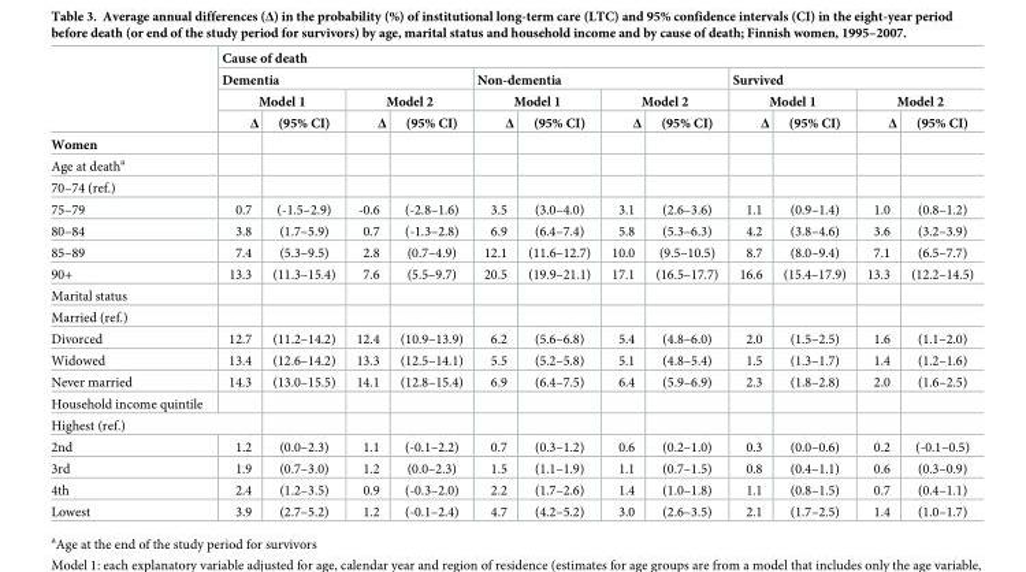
<table><thead><tr><td rowspan="5">Women</td><td colspan="12">Cause of death</td></tr><tr><td colspan="4">Dementia</td><td colspan="4">Non-dementia</td><td colspan="4">Survived</td></tr><tr><td colspan="2">Model 1</td><td colspan="2">Model 2</td><td colspan="2">Model 1</td><td colspan="2">Model 2</td><td colspan="2">Model 1</td><td colspan="2">Model 2</td></tr><tr><td rowspan="2">Δ</td><td rowspan="2">(95% CI)</td><td rowspan="2">Δ</td><td rowspan="2">(95% CI)</td><td rowspan="2">Δ</td><td rowspan="2">(95% CI)</td><td rowspan="2">Δ</td><td rowspan="2">(95% CI)</td><td rowspan="2">Δ</td><td rowspan="2">(95% CI)</td><td rowspan="2">Δ</td><td rowspan="2">(95% CI)</td></tr><tr></tr></thead><tbody><tr><td colspan="13">Age at death<sup>a</sup></td></tr><tr><td colspan="13">70–74 (ref.)</td></tr><tr><td>75–79</td><td>0.7</td><td>(-1.5–2.9)</td><td>-0.6</td><td>(-2.8–1.6)</td><td>3.5</td><td>(3.0–4.0)</td><td>3.1</td><td>(2.6–3.6)</td><td>1.1</td><td>(0.9–1.4)</td><td>1.0</td><td>(0.8–1.2)</td></tr><tr><td>80–84</td><td>3.8</td><td>(1.7–5.9)</td><td>0.7</td><td>(-1.3–2.8)</td><td>6.9</td><td>(6.4–7.4)</td><td>5.8</td><td>(5.3–6.3)</td><td>4.2</td><td>(3.8–4.6)</td><td>3.6</td><td>(3.2–3.9)</td></tr><tr><td>85–89</td><td>7.4</td><td>(5.3–9.5)</td><td>2.8</td><td>(0.7–4.9)</td><td>12.1</td><td>(11.6–12.7)</td><td>10.0</td><td>(9.5–10.5)</td><td>8.7</td><td>(8.0–9.4)</td><td>7.1</td><td>(6.5–7.7)</td></tr><tr><td>90+</td><td>13.3</td><td>(11.3–15.4)</td><td>7.6</td><td>(5.5–9.7)</td><td>20.5</td><td>(19.9–21.1)</td><td>17.1</td><td>(16.5–17.7)</td><td>16.6</td><td>(15.4–17.9)</td><td>13.3</td><td>(12.2–14.5)</td></tr><tr><td colspan="13">Marital status</td></tr><tr><td colspan="13">Married (ref.)</td></tr><tr><td>Divorced</td><td>12.7</td><td>(11.2–14.2)</td><td>12.4</td><td>(10.9–13.9)</td><td>6.2</td><td>(5.6–6.8)</td><td>5.4</td><td>(4.8–6.0)</td><td>2.0</td><td>(1.5–2.5)</td><td>1.6</td><td>(1.1–2.0)</td></tr><tr><td>Widowed</td><td>13.4</td><td>(12.6–14.2)</td><td>13.3</td><td>(12.5–14.1)</td><td>5.5</td><td>(5.2–5.8)</td><td>5.1</td><td>(4.8–5.4)</td><td>1.5</td><td>(1.3–1.7)</td><td>1.4</td><td>(1.2–1.6)</td></tr><tr><td>Never married</td><td>14.3</td><td>(13.0–15.5)</td><td>14.1</td><td>(12.8–15.4)</td><td>6.9</td><td>(6.4–7.5)</td><td>6.4</td><td>(5.9–6.9)</td><td>2.3</td><td>(1.8–2.8)</td><td>2.0</td><td>(1.6–2.5)</td></tr><tr><td colspan="13">Household income quintile</td></tr><tr><td colspan="13">Highest (ref.)</td></tr><tr><td>2nd</td><td>1.2</td><td>(0.0–2.3)</td><td>1.1</td><td>(-0.1–2.2)</td><td>0.7</td><td>(0.3–1.2)</td><td>0.6</td><td>(0.2–1.0)</td><td>0.3</td><td>(0.0–0.6)</td><td>0.2</td><td>(-0.1–0.5)</td></tr><tr><td>3rd</td><td>1.9</td><td>(0.7–3.0)</td><td>1.2</td><td>(0.0–2.3)</td><td>1.5</td><td>(1.1–1.9)</td><td>1.1</td><td>(0.7–1.5)</td><td>0.8</td><td>(0.4–1.1)</td><td>0.6</td><td>(0.3–0.9)</td></tr><tr><td>4th</td><td>2.4</td><td>(1.2–3.5)</td><td>0.9</td><td>(-0.3–2.0)</td><td>2.2</td><td>(1.7–2.6)</td><td>1.4</td><td>(1.0–1.8)</td><td>1.1</td><td>(0.8–1.5)</td><td>0.7</td><td>(0.4–1.1)</td></tr><tr><td>Lowest</td><td>3.9</td><td>(2.7–5.2)</td><td>1.2</td><td>(-0.1–2.4)</td><td>4.7</td><td>(4.2–5.2)</td><td>3.0</td><td>(2.6–3.5)</td><td>2.1</td><td>(1.7–2.5)</td><td>1.4</td><td>(1.0–1.7)</td></tr></tbody></table>